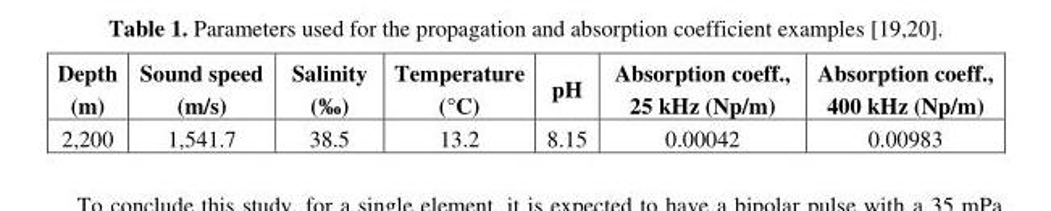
<table><thead><tr><td>Depth (m)</td><td>Sound speed (m/s)</td><td>Salinity (‰)</td><td>Temperature (°C)</td><td>pH</td><td>Absorption coeff., 25 kHz (Np/m)</td><td>Absorption coeff., 400 kHz (Np/m)</td></tr></thead><tbody><tr><td>2,200</td><td>1,541.7</td><td>38.5</td><td>13.2</td><td>8.15</td><td>0.00042</td><td>0.00983</td></tr></tbody></table>